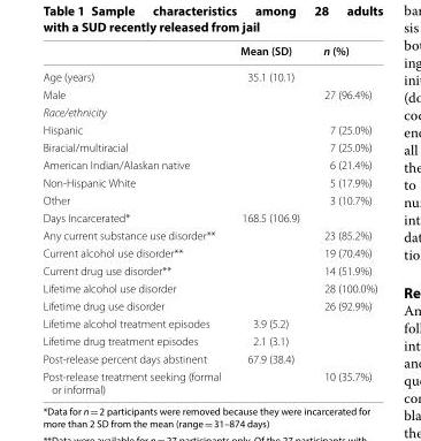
<table><thead><tr><td></td><td>Mean (SD)</td><td>n (%)</td></tr></thead><tbody><tr><td>Age (years)</td><td>35.1 (10.1)</td><td></td></tr><tr><td>Male</td><td></td><td>27 (96.4%)</td></tr><tr><td colspan="3">Race/ethnicity</td></tr><tr><td>Hispanic</td><td></td><td>7 (25.0%)</td></tr><tr><td>Biracial/multiracial</td><td></td><td>7 (25.0%)</td></tr><tr><td>American Indian/Alaskan native</td><td></td><td>6 (21.4%)</td></tr><tr><td>Non-Hispanic White</td><td></td><td>5 (17.9%)</td></tr><tr><td>Other</td><td></td><td>3 (10.7%)</td></tr><tr><td>Days Incarcerated*</td><td>168.5 (106.9)</td><td></td></tr><tr><td>Any current substance use disorder**</td><td></td><td>23 (85.2%)</td></tr><tr><td>Current alcohol use disorder**</td><td></td><td>19 (70.4%)</td></tr><tr><td>Current drug use disorder**</td><td></td><td>14 (51.9%)</td></tr><tr><td>Lifetime alcohol use disorder</td><td></td><td>28 (100.0%)</td></tr><tr><td>Lifetime drug use disorder</td><td></td><td>26 (92.9%)</td></tr><tr><td>Lifetime alcohol treatment episodes</td><td>3.9 (5.2)</td><td></td></tr><tr><td>Lifetime drug treatment episodes</td><td>2.1 (3.1)</td><td></td></tr><tr><td>Post-release percent days abstinent</td><td>67.9 (38.4)</td><td></td></tr><tr><td>Post-release treatment seeking (formal or informal)</td><td></td><td>10 (35.7%)</td></tr></tbody></table>